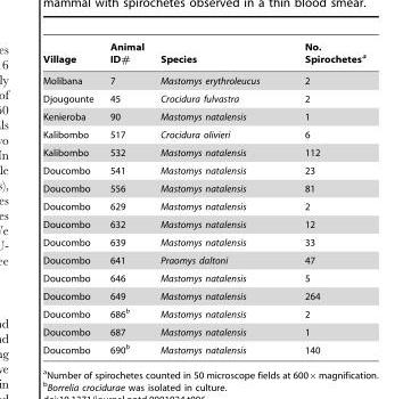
<table><thead><tr><td>Village</td><td>Animal ID#</td><td>Species</td><td>No. Spirochetes<sup>a</sup></td></tr></thead><tbody><tr><td>Molibana</td><td>7</td><td>Mastomys erythroleucus</td><td>2</td></tr><tr><td>Djougounte</td><td>45</td><td>Crocidura fulvastra</td><td>2</td></tr><tr><td>Kenieroba</td><td>90</td><td>Mastomys natalensis</td><td>1</td></tr><tr><td>Kalibombo</td><td>517</td><td>Crocidura olivieri</td><td>6</td></tr><tr><td>Kalibombo</td><td>532</td><td>Mastomys natalensis</td><td>112</td></tr><tr><td>Doucombo</td><td>541</td><td>Mastomys natalensis</td><td>23</td></tr><tr><td>Doucombo</td><td>556</td><td>Mastomys natalensis</td><td>81</td></tr><tr><td>Doucombo</td><td>629</td><td>Mastomys natalensis</td><td>2</td></tr><tr><td>Doucombo</td><td>632</td><td>Mastomys natalensis</td><td>12</td></tr><tr><td>Doucombo</td><td>639</td><td>Mastomys natalensis</td><td>33</td></tr><tr><td>Doucombo</td><td>641</td><td>Praomys daltoni</td><td>47</td></tr><tr><td>Doucombo</td><td>646</td><td>Mastomys natalensis</td><td>5</td></tr><tr><td>Doucombo</td><td>649</td><td>Mastomys natalensis</td><td>264</td></tr><tr><td>Doucombo</td><td>686<sup>b</sup></td><td>Mastomys natalensis</td><td>2</td></tr><tr><td>Doucombo</td><td>687</td><td>Mastomys natalensis</td><td>1</td></tr><tr><td>Doucombo</td><td>690<sup>b</sup></td><td>Mastomys natalensis</td><td>140</td></tr></tbody></table>